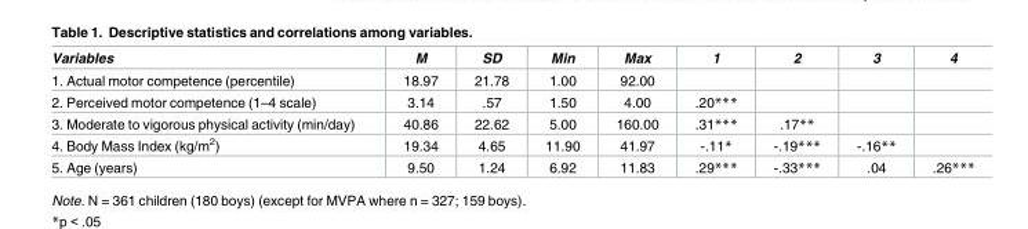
<table><thead><tr><td>Variables</td><td>M</td><td>SD</td><td>Min</td><td>Max</td><td>1</td><td>2</td><td>3</td><td>4</td></tr></thead><tbody><tr><td>1. Actual motor competence (percentile)</td><td>18.97</td><td>21.78</td><td>1.00</td><td>92.00</td><td></td><td></td><td></td><td></td></tr><tr><td>2. Perceived motor competence (1–4 scale)</td><td>3.14</td><td>.57</td><td>1.50</td><td>4.00</td><td>.20***</td><td></td><td></td><td></td></tr><tr><td>3. Moderate to vigorous physical activity (min/day)</td><td>40.86</td><td>22.62</td><td>5.00</td><td>160.00</td><td>.31***</td><td>.17**</td><td></td><td></td></tr><tr><td>4. Body Mass Index (kg/m<sup>2</sup>)</td><td>19.34</td><td>4.65</td><td>11.90</td><td>41.97</td><td>-.11*</td><td>-.19***</td><td>-.16**</td><td></td></tr><tr><td>5. Age (years)</td><td>9.50</td><td>1.24</td><td>6.92</td><td>11.83</td><td>.29***</td><td>-.33***</td><td>.04</td><td>.26***</td></tr></tbody></table>